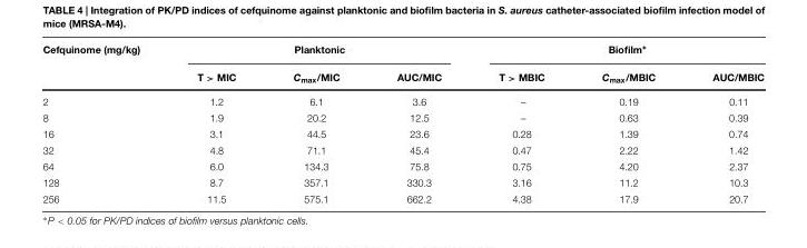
<table><thead><tr><td rowspan="2">Cefquinome (mg/kg)</td><td colspan="3">Planktonic</td><td colspan="3">Biofilm∗</td></tr><tr><td>T &gt; MIC</td><td>C<sub>max</sub>/MIC</td><td>AUC/MIC</td><td>T &gt; MBIC</td><td>C<sub>max</sub>/MBIC</td><td>AUC/MBIC</td></tr></thead><tbody><tr><td>2</td><td>1.2</td><td>6.1</td><td>3.6</td><td>–</td><td>0.19</td><td>0.11</td></tr><tr><td>8</td><td>1.9</td><td>20.2</td><td>12.5</td><td>–</td><td>0.63</td><td>0.39</td></tr><tr><td>16</td><td>3.1</td><td>44.5</td><td>23.6</td><td>0.28</td><td>1.39</td><td>0.74</td></tr><tr><td>32</td><td>4.8</td><td>71.1</td><td>45.4</td><td>0.47</td><td>2.22</td><td>1.42</td></tr><tr><td>64</td><td>6.0</td><td>134.3</td><td>75.8</td><td>0.75</td><td>4.20</td><td>2.37</td></tr><tr><td>128</td><td>8.7</td><td>357.1</td><td>330.3</td><td>3.16</td><td>11.2</td><td>10.3</td></tr><tr><td>256</td><td>11.5</td><td>575.1</td><td>662.2</td><td>4.38</td><td>17.9</td><td>20.7</td></tr></tbody></table>